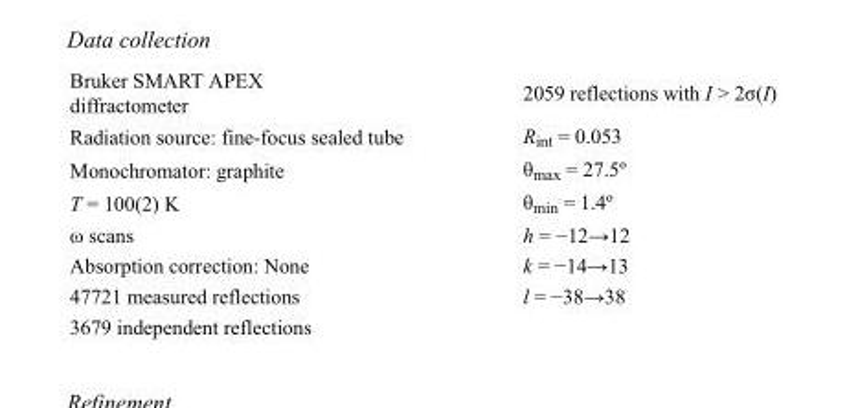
<table><tbody><tr><td>Bruker SMART APEX diffractometer</td><td>2059 reflections with I &gt; 2σ(I)</td></tr><tr><td>Radiation source: fine-focus sealed tube</td><td>R<sub>int</sub> = 0.053</td></tr><tr><td>Monochromator: graphite</td><td>θ<sub>max</sub> = 27.5º</td></tr><tr><td>T = 100(2) K</td><td>θ<sub>min</sub> = 1.4º</td></tr><tr><td>ω scans</td><td>h = −12→12</td></tr><tr><td>Absorption correction: None</td><td>k = −14→13</td></tr><tr><td>47721 measured reflections</td><td>l = −38→38</td></tr><tr><td>3679 independent reflections</td><td></td></tr></tbody></table>